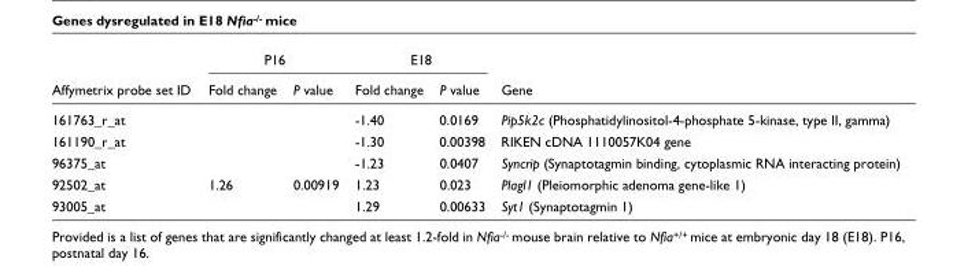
<table><thead><tr><td rowspan="2">Affymetrix probe set ID</td><td colspan="2">P16</td><td colspan="2">E18</td><td rowspan="2">Gene</td></tr><tr><td>Fold change</td><td>P value</td><td>Fold change</td><td>P value</td></tr></thead><tbody><tr><td>161763_r_at</td><td></td><td></td><td>-1.40</td><td>0.0169</td><td>Pip5k2c (Phosphatidylinositol-4-phosphate 5-kinase, type II, gamma)</td></tr><tr><td>161190_r_at</td><td></td><td></td><td>-1.30</td><td>0.00398</td><td>RIKEN cDNA 1110057K04 gene</td></tr><tr><td>96375_at</td><td></td><td></td><td>-1.23</td><td>0.0407</td><td>Syncrip (Synaptotagmin binding, cytoplasmic RNA interacting protein)</td></tr><tr><td>92502_at</td><td>1.26</td><td>0.00919</td><td>1.23</td><td>0.023</td><td>Plagl1 (Pleiomorphic adenoma gene-like 1)</td></tr><tr><td>93005_at</td><td></td><td></td><td>1.29</td><td>0.00633</td><td>Syt1 (Synaptotagmin 1)</td></tr></tbody></table>